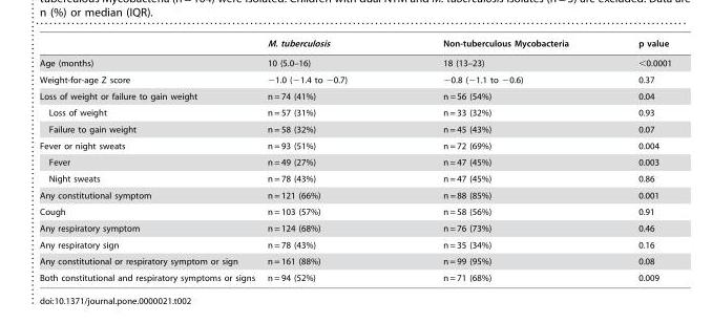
<table><thead><tr><td></td><td>M. tuberculosis</td><td>Non-tuberculous Mycobacteria</td><td>p value</td></tr></thead><tbody><tr><td>Age (months)</td><td>10 (5.0–16)</td><td>18 (13–23)</td><td>&lt;0.0001</td></tr><tr><td>Weight-for-age Z score</td><td>−1.0 (−1.4 to −0.7)</td><td>−0.8 (−1.1 to −0.6)</td><td>0.37</td></tr><tr><td>Loss of weight or failure to gain weight</td><td>n = 74 (41%)</td><td>n = 56 (54%)</td><td>0.04</td></tr><tr><td>Loss of weight</td><td>n = 57 (31%)</td><td>n = 33 (32%)</td><td>0.93</td></tr><tr><td>Failure to gain weight</td><td>n = 58 (32%)</td><td>n = 45 (43%)</td><td>0.07</td></tr><tr><td>Fever or night sweats</td><td>n = 93 (51%)</td><td>n = 72 (69%)</td><td>0.004</td></tr><tr><td>Fever</td><td>n = 49 (27%)</td><td>n = 47 (45%)</td><td>0.003</td></tr><tr><td>Night sweats</td><td>n = 78 (43%)</td><td>n = 47 (45%)</td><td>0.86</td></tr><tr><td>Any constitutional symptom</td><td>n = 121 (66%)</td><td>n = 88 (85%)</td><td>0.001</td></tr><tr><td>Cough</td><td>n = 103 (57%)</td><td>n = 58 (56%)</td><td>0.91</td></tr><tr><td>Any respiratory symptom</td><td>n = 124 (68%)</td><td>n = 76 (73%)</td><td>0.46</td></tr><tr><td>Any respiratory sign</td><td>n = 78 (43%)</td><td>n = 35 (34%)</td><td>0.16</td></tr><tr><td>Any constitutional or respiratory symptom or sign</td><td>n = 161 (88%)</td><td>n = 99 (95%)</td><td>0.08</td></tr><tr><td>Both constitutional and respiratory symptoms or signs</td><td>n = 94 (52%)</td><td>n = 71 (68%)</td><td>0.009</td></tr></tbody></table>